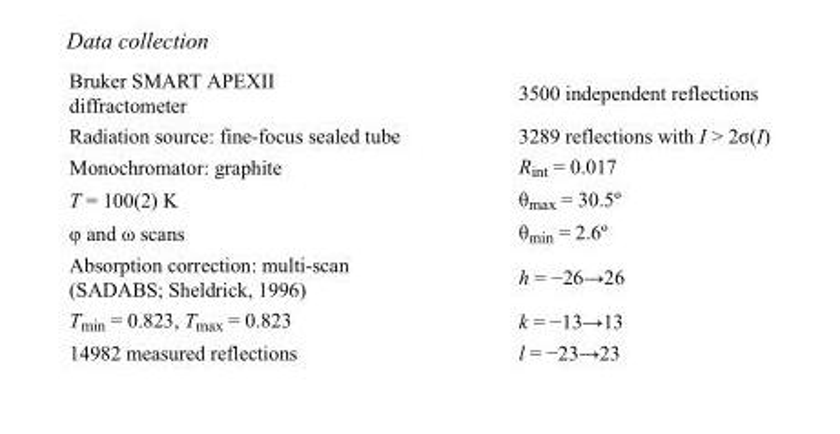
<table><tbody><tr><td>Bruker SMART APEXII diffractometer</td><td>3500 independent reflections</td></tr><tr><td>Radiation source: fine-focus sealed tube</td><td>3289 reflections with I &gt; 2σ(I)</td></tr><tr><td>Monochromator: graphite</td><td>R<sub>int</sub> = 0.017</td></tr><tr><td>T = 100(2) K</td><td>θ<sub>max</sub> = 30.5º</td></tr><tr><td>φ and ω scans</td><td>θ<sub>min</sub> = 2.6º</td></tr><tr><td>Absorption correction: multi-scan (SADABS; Sheldrick, 1996)</td><td>h = −26→26</td></tr><tr><td>T<sub>min</sub> = 0.823, T<sub>max</sub> = 0.823</td><td>k = −13→13</td></tr><tr><td>14982 measured reflections</td><td>l = −23→23</td></tr></tbody></table>